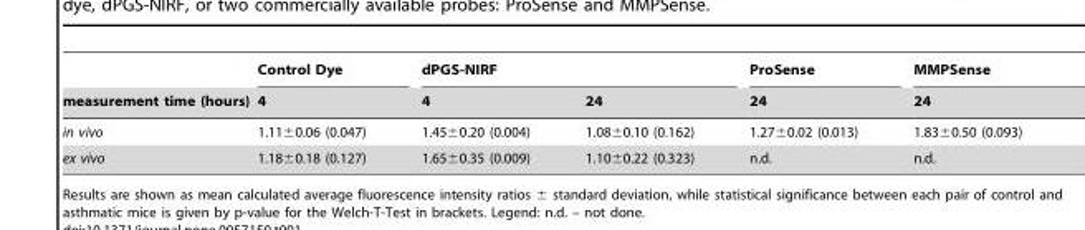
<table><thead><tr><td rowspan="2">measurement time (hours)</td><td rowspan="2">Control Dye 4</td><td colspan="2">dPGS-NIRF</td><td rowspan="2">ProSense 24</td><td rowspan="2">MMPSense 24</td></tr><tr><td>4</td><td>24</td></tr></thead><tbody><tr><td>in vivo</td><td>1.11±0.06 (0.047)</td><td>1.45±0.20 (0.004)</td><td>1.08±0.10 (0.162)</td><td>1.27±0.02 (0.013)</td><td>1.83±0.50 (0.093)</td></tr><tr><td>ex vivo</td><td>1.18±0.18 (0.127)</td><td>1.65±0.35 (0.009)</td><td>1.10±0.22 (0.323)</td><td>n.d.</td><td>n.d.</td></tr></tbody></table>